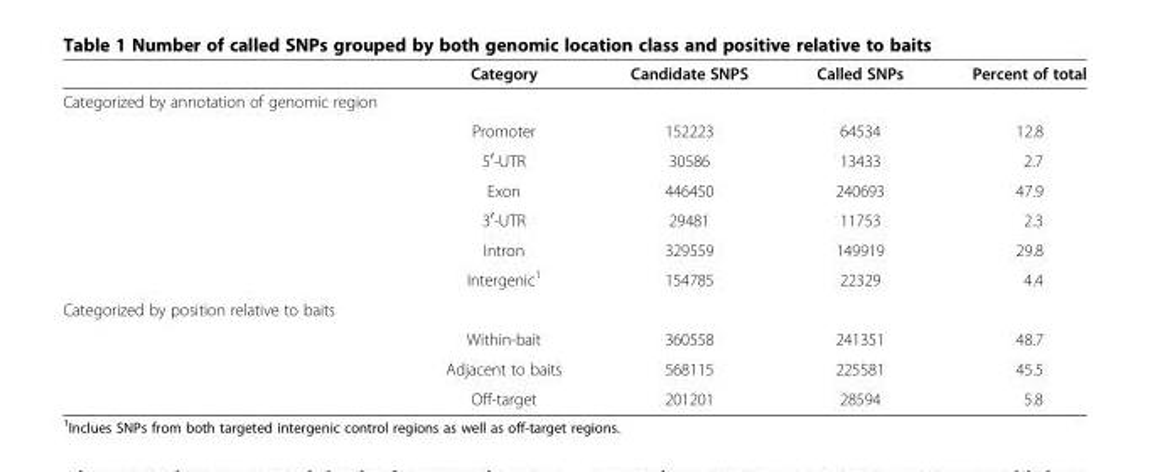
<table><thead><tr><td></td><td>Category</td><td>Candidate SNPS</td><td>Called SNPs</td><td>Percent of total</td></tr></thead><tbody><tr><td colspan="5">Categorized by annotation of genomic region</td></tr><tr><td></td><td>Promoter</td><td>152223</td><td>64534</td><td>12.8</td></tr><tr><td></td><td>5<sup>′</sup>-UTR</td><td>30586</td><td>13433</td><td>2.7</td></tr><tr><td></td><td>Exon</td><td>446450</td><td>240693</td><td>47.9</td></tr><tr><td></td><td>3<sup>′</sup>-UTR</td><td>29481</td><td>11753</td><td>2.3</td></tr><tr><td></td><td>Intron</td><td>329559</td><td>149919</td><td>29.8</td></tr><tr><td></td><td>Intergenic<sup>1</sup></td><td>154785</td><td>22329</td><td>4.4</td></tr><tr><td colspan="5">Categorized by position relative to baits</td></tr><tr><td></td><td>Within-bait</td><td>360558</td><td>241351</td><td>48.7</td></tr><tr><td></td><td>Adjacent to baits</td><td>568115</td><td>225581</td><td>45.5</td></tr><tr><td></td><td>Off-target</td><td>201201</td><td>28594</td><td>5.8</td></tr></tbody></table>